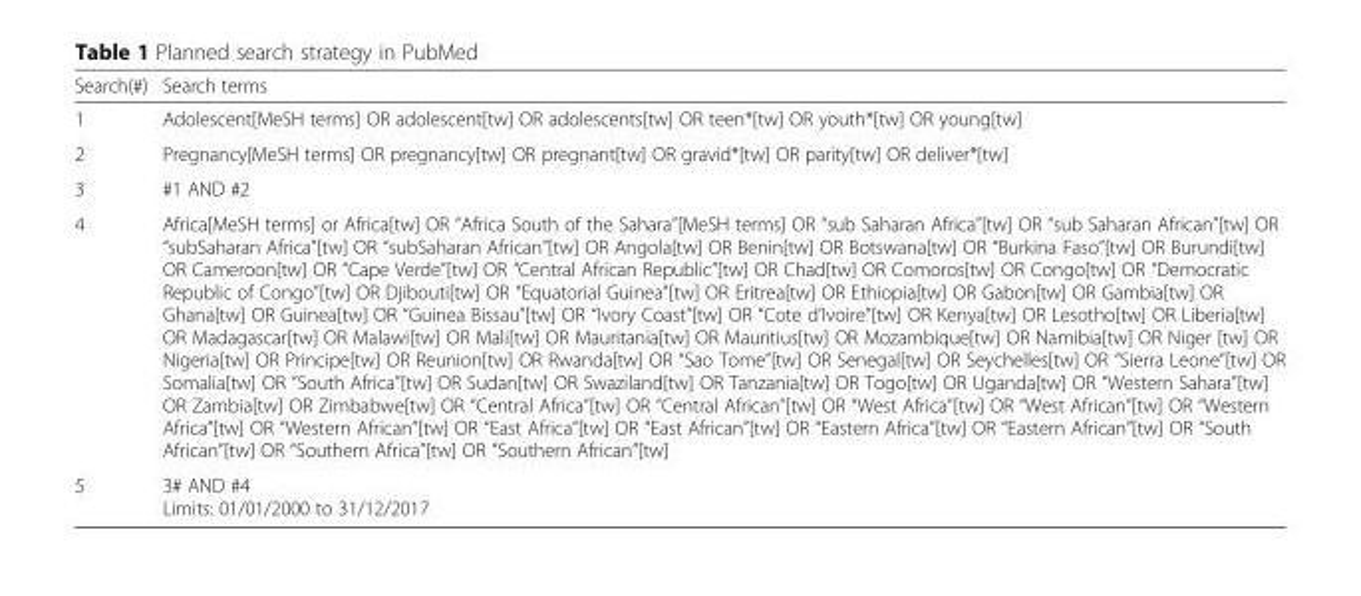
<table><thead><tr><td>Search(#)</td><td>Search terms</td></tr></thead><tbody><tr><td>1</td><td>Adolescent[MeSH terms] OR adolescent[tw] OR adolescents[tw] OR teen*[tw] OR youth*[tw] OR young[tw]</td></tr><tr><td>2</td><td>Pregnancy[MeSH terms] OR pregnancy[tw] OR pregnant[tw] OR gravid*[tw] OR parity[tw] OR deliver*[tw]</td></tr><tr><td>3</td><td>#1 AND #2</td></tr><tr><td>4</td><td>Africa[MeSH terms] or Africa[tw] OR “Africa South of the Sahara”[MeSH terms] OR “sub Saharan Africa”[tw] OR “sub Saharan African”[tw] OR “subSaharan Africa”[tw] OR “subSaharan African”[tw] OR Angola[tw] OR Benin[tw] OR Botswana[tw] OR “Burkina Faso”[tw] OR Burundi[tw] OR Cameroon[tw] OR “Cape Verde”[tw] OR “Central African Republic”[tw] OR Chad[tw] OR Comoros[tw] OR Congo[tw] OR “Democratic Republic of Congo”[tw] OR Djibouti[tw] OR “Equatorial Guinea”[tw] OR Eritrea[tw] OR Ethiopia[tw] OR Gabon[tw] OR Gambia[tw] OR Ghana[tw] OR Guinea[tw] OR “Guinea Bissau”[tw] OR “Ivory Coast”[tw] OR “Cote d’Ivoire”[tw] OR Kenya[tw] OR Lesotho[tw] OR Liberia[tw] OR Madagascar[tw] OR Malawi[tw] OR Mali[tw] OR Mauritania[tw] OR Mauritius[tw] OR Mozambique[tw] OR Namibia[tw] OR Niger [tw] OR Nigeria[tw] OR Principe[tw] OR Reunion[tw] OR Rwanda[tw] OR “Sao Tome”[tw] OR Senegal[tw] OR Seychelles[tw] OR “Sierra Leone”[tw] OR Somalia[tw] OR “South Africa”[tw] OR Sudan[tw] OR Swaziland[tw] OR Tanzania[tw] OR Togo[tw] OR Uganda[tw] OR “Western Sahara”[tw] OR Zambia[tw] OR Zimbabwe[tw] OR “Central Africa”[tw] OR “Central African”[tw] OR “West Africa”[tw] OR “West African”[tw] OR “Western Africa”[tw] OR “Western African”[tw] OR “East Africa”[tw] OR “East African”[tw] OR “Eastern Africa”[tw] OR “Eastern African”[tw] OR “South African”[tw] OR “Southern Africa”[tw] OR “Southern African”[tw]</td></tr><tr><td>5</td><td>3# AND #4 Limits: 01/01/2000 to 31/12/2017</td></tr></tbody></table>